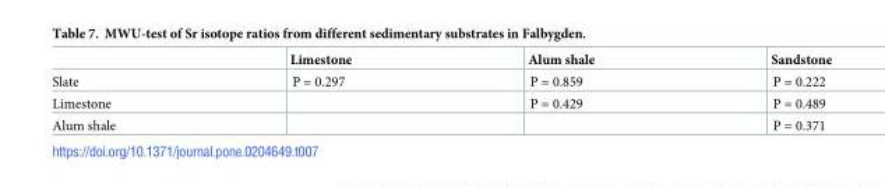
<table><thead><tr><td></td><td>Limestone</td><td>Alum shale</td><td>Sandstone</td></tr></thead><tbody><tr><td>Slate</td><td>P = 0.297</td><td>P = 0.859</td><td>P = 0.222</td></tr><tr><td>Limestone</td><td></td><td>P = 0.429</td><td>P = 0.489</td></tr><tr><td>Alum shale</td><td></td><td></td><td>P = 0.371</td></tr></tbody></table>